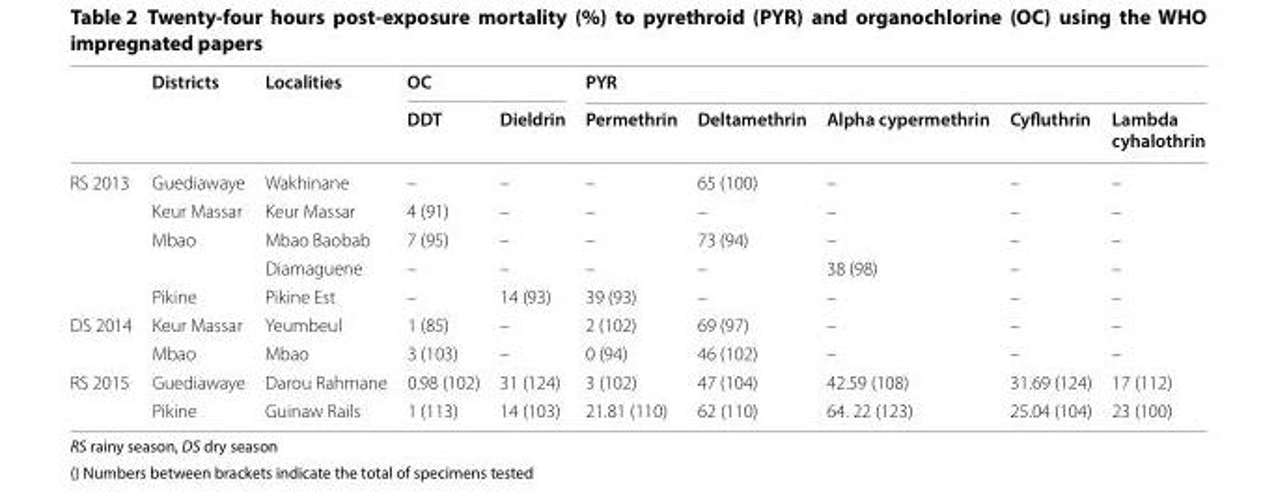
<table><thead><tr><td rowspan="2"></td><td rowspan="2">Districts</td><td rowspan="2">Localities</td><td colspan="2">OC</td><td colspan="5">PYR</td></tr><tr><td>DDT</td><td>Dieldrin</td><td>Permethrin</td><td>Deltamethrin</td><td>Alpha cypermethrin</td><td>Cyfluthrin</td><td>Lambda cyhalothrin</td></tr></thead><tbody><tr><td rowspan="5">RS 2013</td><td>Guediawaye</td><td>Wakhinane</td><td>–</td><td>–</td><td>–</td><td>65 (100)</td><td>–</td><td>–</td><td>–</td></tr><tr><td>Keur Massar</td><td>Keur Massar</td><td>4 (91)</td><td>–</td><td>–</td><td>–</td><td>–</td><td>–</td><td>–</td></tr><tr><td rowspan="2">Mbao</td><td>Mbao Baobab</td><td>7 (95)</td><td>–</td><td>–</td><td>73 (94)</td><td>–</td><td>–</td><td>–</td></tr><tr><td>Diamaguene</td><td>–</td><td>–</td><td>–</td><td>–</td><td>38 (98)</td><td>–</td><td>–</td></tr><tr><td>Pikine</td><td>Pikine Est</td><td>–</td><td>14 (93)</td><td>39 (93)</td><td>–</td><td>–</td><td>–</td><td>–</td></tr><tr><td rowspan="2">DS 2014</td><td>Keur Massar</td><td>Yeumbeul</td><td>1 (85)</td><td>–</td><td>2 (102)</td><td>69 (97)</td><td>–</td><td>–</td><td>–</td></tr><tr><td>Mbao</td><td>Mbao</td><td>3 (103)</td><td>–</td><td>0 (94)</td><td>46 (102)</td><td>–</td><td>–</td><td>–</td></tr><tr><td rowspan="2">RS 2015</td><td>Guediawaye</td><td>Darou Rahmane</td><td>0.98 (102)</td><td>31 (124)</td><td>3 (102)</td><td>47 (104)</td><td>42.59 (108)</td><td>31.69 (124)</td><td>17 (112)</td></tr><tr><td>Pikine</td><td>Guinaw Rails</td><td>1 (113)</td><td>14 (103)</td><td>21.81 (110)</td><td>62 (110)</td><td>64. 22 (123)</td><td>25.04 (104)</td><td>23 (100)</td></tr></tbody></table>